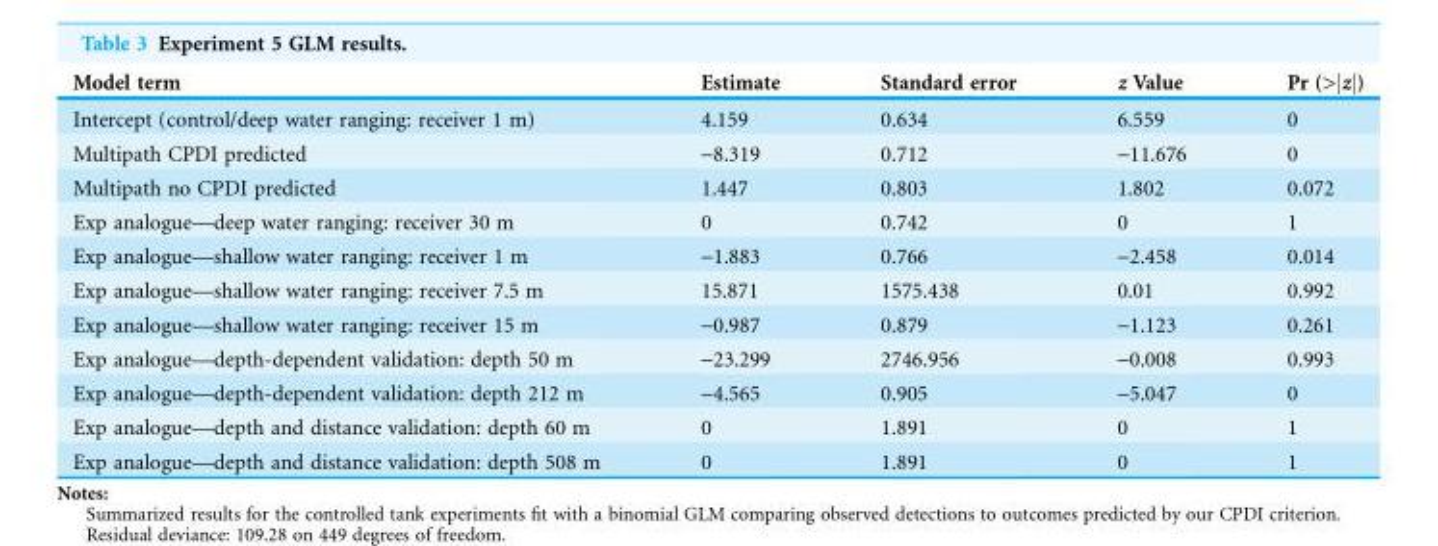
<table><thead><tr><td>Model term</td><td>Estimate</td><td>Standard error</td><td>z Value</td><td>Pr (&gt;|z|)</td></tr></thead><tbody><tr><td>Intercept (control/deep water ranging: receiver 1 m)</td><td>4.159</td><td>0.634</td><td>6.559</td><td>0</td></tr><tr><td>Multipath CPDI predicted</td><td>-8.319</td><td>0.712</td><td>-11.676</td><td>0</td></tr><tr><td>Multipath no CPDI predicted</td><td>1.447</td><td>0.803</td><td>1.802</td><td>0.072</td></tr><tr><td>Exp analogue—deep water ranging: receiver 30 m</td><td>0</td><td>0.742</td><td>0</td><td>1</td></tr><tr><td>Exp analogue—shallow water ranging: receiver 1 m</td><td>-1.883</td><td>0.766</td><td>-2.458</td><td>0.014</td></tr><tr><td>Exp analogue—shallow water ranging: receiver 7.5 m</td><td>15.871</td><td>1575.438</td><td>0.01</td><td>0.992</td></tr><tr><td>Exp analogue—shallow water ranging: receiver 15 m</td><td>-0.987</td><td>0.879</td><td>-1.123</td><td>0.261</td></tr><tr><td>Exp analogue—depth-dependent validation: depth 50 m</td><td>-23.299</td><td>2746.956</td><td>-0.008</td><td>0.993</td></tr><tr><td>Exp analogue—depth-dependent validation: depth 212 m</td><td>-4.565</td><td>0.905</td><td>-5.047</td><td>0</td></tr><tr><td>Exp analogue—depth and distance validation: depth 60 m</td><td>0</td><td>1.891</td><td>0</td><td>1</td></tr><tr><td>Exp analogue—depth and distance validation: depth 508 m</td><td>0</td><td>1.891</td><td>0</td><td>1</td></tr></tbody></table>